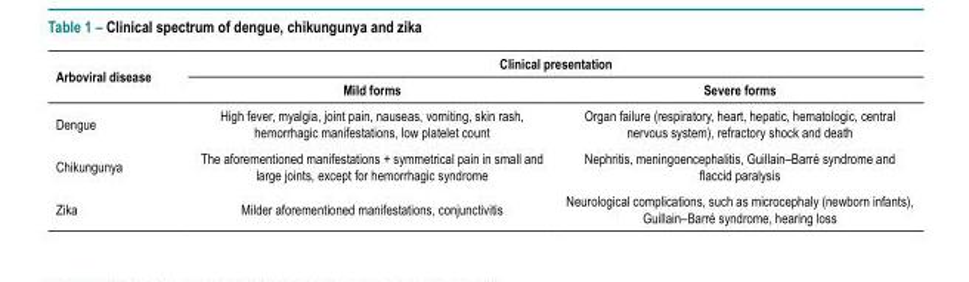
<table><thead><tr><td rowspan="2">Arboviral disease</td><td colspan="2">Clinical presentation</td></tr><tr><td>Mild forms</td><td>Severe forms</td></tr></thead><tbody><tr><td>Dengue</td><td>High fever, myalgia, joint pain, nauseas, vomiting, skin rash, hemorrhagic manifestations, low platelet count</td><td>Organ failure (respiratory, heart, hepatic, hematologic, central nervous system), refractory shock and death</td></tr><tr><td>Chikungunya</td><td>The aforementioned manifestations + symmetrical pain in small and large joints, except for hemorrhagic syndrome</td><td>Nephritis, meningoencephalitis, Guillain–Barré syndrome and flaccid paralysis</td></tr><tr><td>Zika</td><td>Milder aforementioned manifestations, conjunctivitis</td><td>Neurological complications, such as microcephaly (newborn infants), Guillain–Barré syndrome, hearing loss</td></tr></tbody></table>